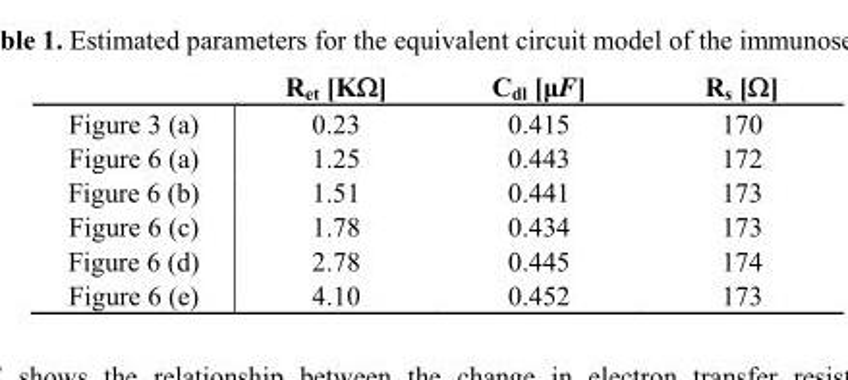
<table><thead><tr><td></td><td>R<sub>et</sub> [KΩ]</td><td>C<sub>dl</sub> [μF]</td><td>R<sub>s</sub> [Ω]</td></tr></thead><tbody><tr><td>Figure 3 (a)</td><td>0.23</td><td>0.415</td><td>170</td></tr><tr><td>Figure 6 (a)</td><td>1.25</td><td>0.443</td><td>172</td></tr><tr><td>Figure 6 (b)</td><td>1.51</td><td>0.441</td><td>173</td></tr><tr><td>Figure 6 (c)</td><td>1.78</td><td>0.434</td><td>173</td></tr><tr><td>Figure 6 (d)</td><td>2.78</td><td>0.445</td><td>174</td></tr><tr><td>Figure 6 (e)</td><td>4.10</td><td>0.452</td><td>173</td></tr></tbody></table>